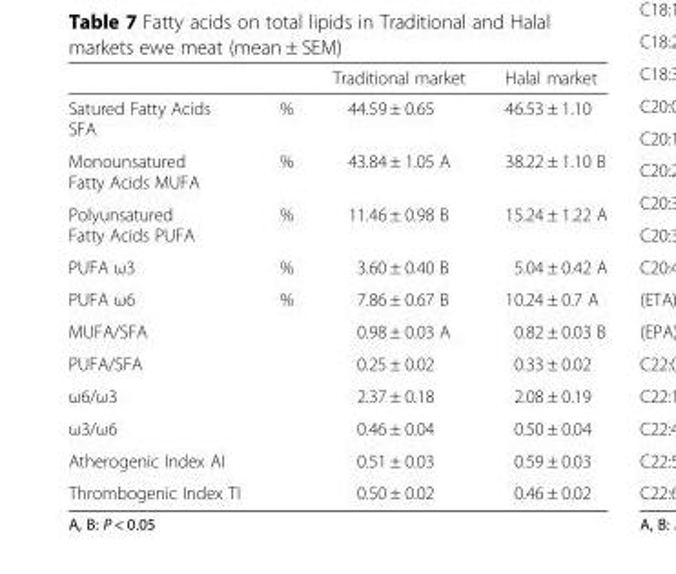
<table><thead><tr><td></td><td></td><td>Traditional market</td><td>Halal market</td></tr></thead><tbody><tr><td>Satured Fatty Acids SFA</td><td>%</td><td>44.59 ± 0.65</td><td>46.53 ± 1.10</td></tr><tr><td>Monounsatured Fatty Acids MUFA</td><td>%</td><td>43.84 ± 1.05 A</td><td>38.22 ± 1.10 B</td></tr><tr><td>Polyunsatured Fatty Acids PUFA</td><td>%</td><td>11.46 ± 0.98 B</td><td>15.24 ± 1.22 A</td></tr><tr><td>PUFA ω3</td><td>%</td><td>3.60 ± 0.40 B</td><td>5.04 ± 0.42 A</td></tr><tr><td>PUFA ω6</td><td>%</td><td>7.86 ± 0.67 B</td><td>10.24 ± 0.7 A</td></tr><tr><td>MUFA/SFA</td><td></td><td>0.98 ± 0.03 A</td><td>0.82 ± 0.03 B</td></tr><tr><td>PUFA/SFA</td><td></td><td>0.25 ± 0.02</td><td>0.33 ± 0.02</td></tr><tr><td>ω6/ω3</td><td></td><td>2.37 ± 0.18</td><td>2.08 ± 0.19</td></tr><tr><td>ω3/ω6</td><td></td><td>0.46 ± 0.04</td><td>0.50 ± 0.04</td></tr><tr><td>Atherogenic Index AI</td><td></td><td>0.51 ± 0.03</td><td>0.59 ± 0.03</td></tr><tr><td>Thrombogenic Index TI</td><td></td><td>0.50 ± 0.02</td><td>0.46 ± 0.02</td></tr></tbody></table>